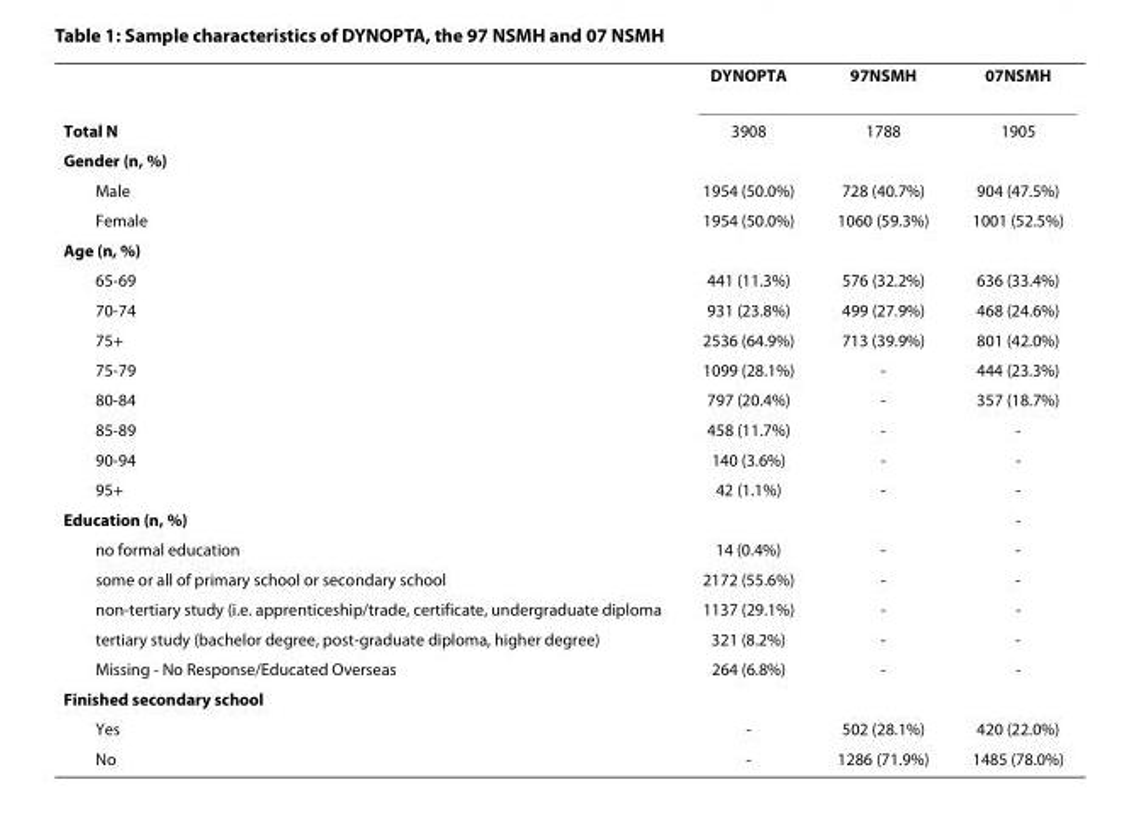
<table><thead><tr><td></td><td>DYNOPTA</td><td>97NSMH</td><td>07NSMH</td></tr></thead><tbody><tr><td>Total N</td><td>3908</td><td>1788</td><td>1905</td></tr><tr><td colspan="4">Gender (n, %)</td></tr><tr><td>Male</td><td>1954 (50.0%)</td><td>728 (40.7%)</td><td>904 (47.5%)</td></tr><tr><td>Female</td><td>1954 (50.0%)</td><td>1060 (59.3%)</td><td>1001 (52.5%)</td></tr><tr><td colspan="4">Age (n, %)</td></tr><tr><td>65-69</td><td>441 (11.3%)</td><td>576 (32.2%)</td><td>636 (33.4%)</td></tr><tr><td>70-74</td><td>931 (23.8%)</td><td>499 (27.9%)</td><td>468 (24.6%)</td></tr><tr><td>75+</td><td>2536 (64.9%)</td><td>713 (39.9%)</td><td>801 (42.0%)</td></tr><tr><td>75-79</td><td>1099 (28.1%)</td><td>-</td><td>444 (23.3%)</td></tr><tr><td>80-84</td><td>797 (20.4%)</td><td>-</td><td>357 (18.7%)</td></tr><tr><td>85-89</td><td>458 (11.7%)</td><td>-</td><td>-</td></tr><tr><td>90-94</td><td>140 (3.6%)</td><td>-</td><td>-</td></tr><tr><td>95+</td><td>42 (1.1%)</td><td>-</td><td>-</td></tr><tr><td>Education (n, %)</td><td></td><td></td><td>-</td></tr><tr><td>no formal education</td><td>14 (0.4%)</td><td>-</td><td>-</td></tr><tr><td>some or all of primary school or secondary school</td><td>2172 (55.6%)</td><td>-</td><td>-</td></tr><tr><td>non-tertiary study (i.e. apprenticeship/trade, certificate, undergraduate diploma</td><td>1137 (29.1%)</td><td>-</td><td>-</td></tr><tr><td>tertiary study (bachelor degree, post-graduate diploma, higher degree)</td><td>321 (8.2%)</td><td>-</td><td>-</td></tr><tr><td>Missing - No Response/Educated Overseas</td><td>264 (6.8%)</td><td>-</td><td>-</td></tr><tr><td colspan="4">Finished secondary school</td></tr><tr><td>Yes</td><td>-</td><td>502 (28.1%)</td><td>420 (22.0%)</td></tr><tr><td>No</td><td>-</td><td>1286 (71.9%)</td><td>1485 (78.0%)</td></tr></tbody></table>